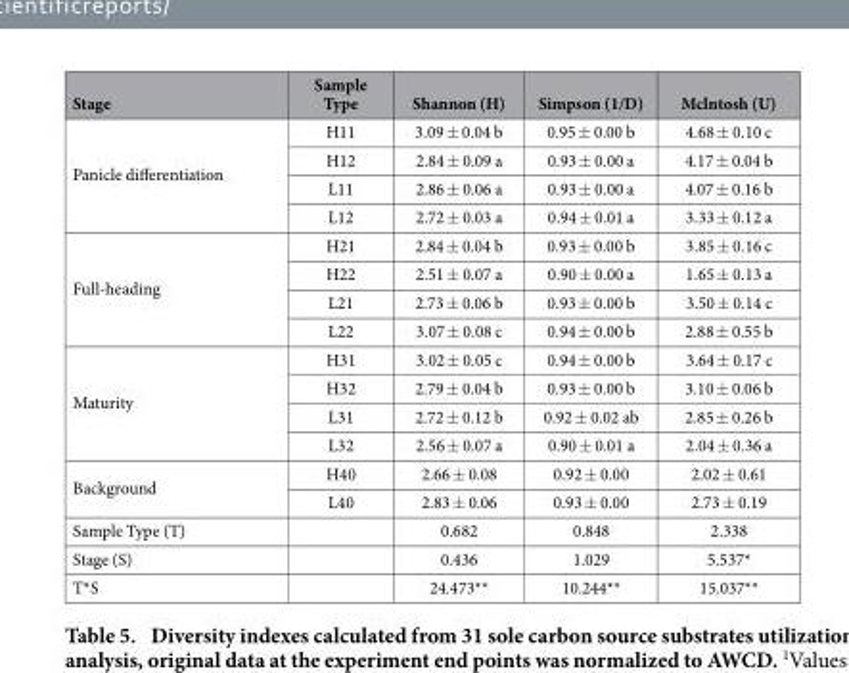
<table><thead><tr><td>Stage</td><td>Sample Type</td><td>Shannon (H)</td><td>Simpson (1/D)</td><td>Mclntosh (U)</td></tr></thead><tbody><tr><td rowspan="4">Panicle differentiation</td><td>H11</td><td>3.09 ± 0.04 b</td><td>0.95 ± 0.00 b</td><td>4.68 ± 0.10 c</td></tr><tr><td>H12</td><td>2.84 ± 0.09 a</td><td>0.93 ± 0.00 a</td><td>4.17 ± 0.04 b</td></tr><tr><td>L11</td><td>2.86 ± 0.06 a</td><td>0.93 ± 0.00 a</td><td>4.07 ± 0.16 b</td></tr><tr><td>L12</td><td>2.72 ± 0.03 a</td><td>0.94 ± 0.01 a</td><td>3.33 ± 0.12 a</td></tr><tr><td rowspan="4">Full-heading</td><td>H21</td><td>2.84 ± 0.04 b</td><td>0.93 ± 0.00 b</td><td>3.85 ± 0.16 c</td></tr><tr><td>H22</td><td>2.51 ± 0.07 a</td><td>0.90 ± 0.00 a</td><td>1.65 ± 0.13 a</td></tr><tr><td>L21</td><td>2.73 ± 0.06 b</td><td>0.93 ± 0.00 b</td><td>3.50 ± 0.14 c</td></tr><tr><td>L22</td><td>3.07 ± 0.08 c</td><td>0.94 ± 0.00 b</td><td>2.88 ± 0.55 b</td></tr><tr><td rowspan="4">Maturity</td><td>H31</td><td>3.02 ± 0.05 c</td><td>0.94 ± 0.00 b</td><td>3.64 ± 0.17 c</td></tr><tr><td>H32</td><td>2.79 ± 0.04 b</td><td>0.93 ± 0.00 b</td><td>3.10 ± 0.06 b</td></tr><tr><td>L31</td><td>2.72 ± 0.12 b</td><td>0.92 ± 0.02 ab</td><td>2.85 ± 0.26 b</td></tr><tr><td>L32</td><td>2.56 ± 0.07 a</td><td>0.90 ± 0.01 a</td><td>2.04 ± 0.36 a</td></tr><tr><td rowspan="2">Background</td><td>H40</td><td>2.66 ± 0.08</td><td>0.92 ± 0.00</td><td>2.02 ± 0.61</td></tr><tr><td>L40</td><td>2.83 ± 0.06</td><td>0.93 ± 0.00</td><td>2.73 ± 0.19</td></tr><tr><td>Sample Type (T)</td><td></td><td>0.682</td><td>0.848</td><td>2.338</td></tr><tr><td>Stage (S)</td><td></td><td>0.436</td><td>1.029</td><td>5.537*</td></tr><tr><td>T*S</td><td></td><td>24.473**</td><td>10.244**</td><td>15.037**</td></tr></tbody></table>